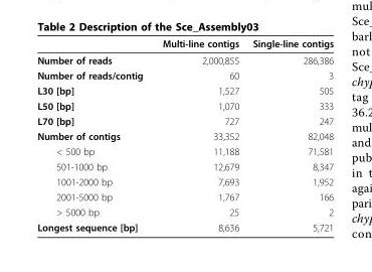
<table><thead><tr><td></td><td>Multi-line contigs</td><td>Single-line contigs</td></tr></thead><tbody><tr><td>Number of reads</td><td>2,000,855</td><td>286,386</td></tr><tr><td>Number of reads/contig</td><td>60</td><td>3</td></tr><tr><td>L30 [bp]</td><td>1,527</td><td>505</td></tr><tr><td>L50 [bp]</td><td>1,070</td><td>333</td></tr><tr><td>L70 [bp]</td><td>727</td><td>247</td></tr><tr><td>Number of contigs</td><td>33,352</td><td>82,048</td></tr><tr><td>&lt; 500 bp</td><td>11,188</td><td>71,581</td></tr><tr><td>501-1000 bp</td><td>12,679</td><td>8,347</td></tr><tr><td>1001-2000 bp</td><td>7,693</td><td>1,952</td></tr><tr><td>2001-5000 bp</td><td>1,767</td><td>166</td></tr><tr><td>&gt; 5000 bp</td><td>25</td><td>2</td></tr><tr><td>Longest sequence [bp]</td><td>8,636</td><td>5,721</td></tr></tbody></table>